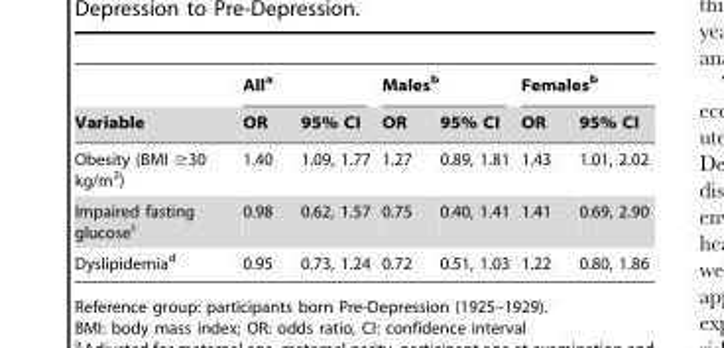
<table><thead><tr><td rowspan="2">Variable</td><td colspan="2">All<sup>a</sup></td><td colspan="2">Males<sup>b</sup></td><td colspan="2">Females<sup>b</sup></td></tr><tr><td>OR</td><td>95% CI</td><td>OR</td><td>95% CI</td><td>OR</td><td>95% CI</td></tr></thead><tbody><tr><td>Obesity (BMI ≥30 kg/m<sup>2</sup>)</td><td>1.40</td><td>1.09, 1.77</td><td>1.27</td><td>0.89, 1.81</td><td>1.43</td><td>1.01, 2.02</td></tr><tr><td>Impaired fasting glucose<sup>c</sup></td><td>0.98</td><td>0.62, 1.57</td><td>0.75</td><td>0.40, 1.41</td><td>1.41</td><td>0.69, 2.90</td></tr><tr><td>Dyslipidemia<sup>d</sup></td><td>0.95</td><td>0.73, 1.24</td><td>0.72</td><td>0.51, 1.03</td><td>1.22</td><td>0.80, 1.86</td></tr></tbody></table>